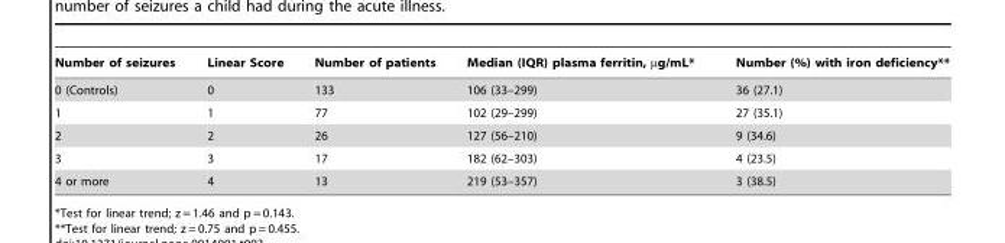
<table><thead><tr><td>Number of seizures</td><td>Linear Score</td><td>Number of patients</td><td>Median (IQR) plasma ferritin, µg/mL*</td><td>Number (%) with iron deficiency**</td></tr></thead><tbody><tr><td>0 (Controls)</td><td>0</td><td>133</td><td>106 (33–299)</td><td>36 (27.1)</td></tr><tr><td>1</td><td>1</td><td>77</td><td>102 (29–299)</td><td>27 (35.1)</td></tr><tr><td>2</td><td>2</td><td>26</td><td>127 (56–210)</td><td>9 (34.6)</td></tr><tr><td>3</td><td>3</td><td>17</td><td>182 (62–303)</td><td>4 (23.5)</td></tr><tr><td>4 or more</td><td>4</td><td>13</td><td>219 (53–357)</td><td>3 (38.5)</td></tr></tbody></table>